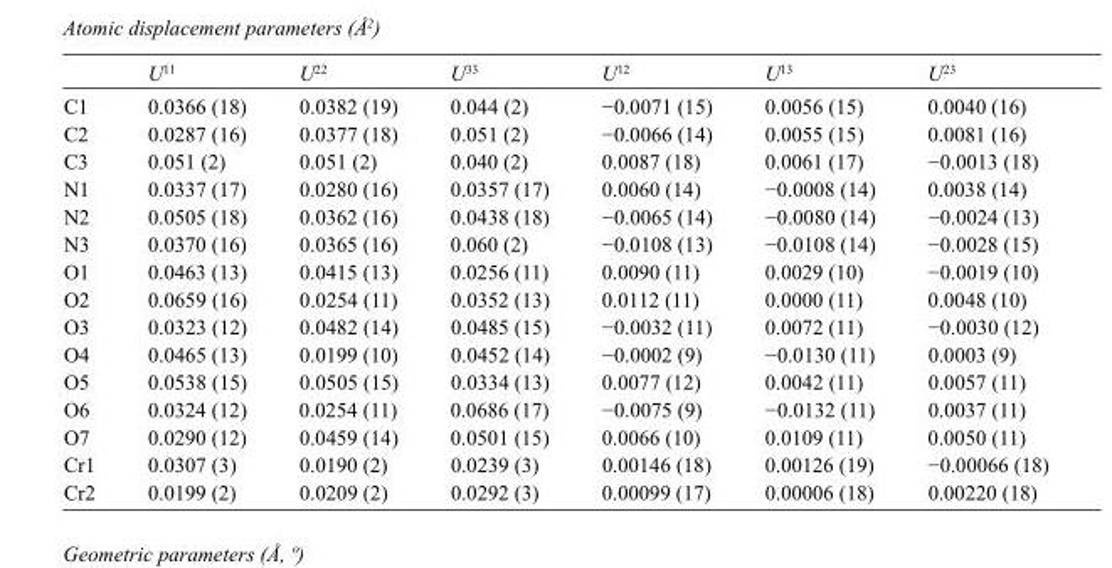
<table><thead><tr><td></td><td>U<sup>11</sup></td><td>U<sup>22</sup></td><td>U<sup>33</sup></td><td>U<sup>12</sup></td><td>U<sup>13</sup></td><td>U<sup>23</sup></td></tr></thead><tbody><tr><td>C1</td><td>0.0366 (18)</td><td>0.0382 (19)</td><td>0.044 (2)</td><td>−0.0071 (15)</td><td>0.0056 (15)</td><td>0.0040 (16)</td></tr><tr><td>C2</td><td>0.0287 (16)</td><td>0.0377 (18)</td><td>0.051 (2)</td><td>−0.0066 (14)</td><td>0.0055 (15)</td><td>0.0081 (16)</td></tr><tr><td>C3</td><td>0.051 (2)</td><td>0.051 (2)</td><td>0.040 (2)</td><td>0.0087 (18)</td><td>0.0061 (17)</td><td>−0.0013 (18)</td></tr><tr><td>N1</td><td>0.0337 (17)</td><td>0.0280 (16)</td><td>0.0357 (17)</td><td>0.0060 (14)</td><td>−0.0008 (14)</td><td>0.0038 (14)</td></tr><tr><td>N2</td><td>0.0505 (18)</td><td>0.0362 (16)</td><td>0.0438 (18)</td><td>−0.0065 (14)</td><td>−0.0080 (14)</td><td>−0.0024 (13)</td></tr><tr><td>N3</td><td>0.0370 (16)</td><td>0.0365 (16)</td><td>0.060 (2)</td><td>−0.0108 (13)</td><td>−0.0108 (14)</td><td>−0.0028 (15)</td></tr><tr><td>O1</td><td>0.0463 (13)</td><td>0.0415 (13)</td><td>0.0256 (11)</td><td>0.0090 (11)</td><td>0.0029 (10)</td><td>−0.0019 (10)</td></tr><tr><td>O2</td><td>0.0659 (16)</td><td>0.0254 (11)</td><td>0.0352 (13)</td><td>0.0112 (11)</td><td>0.0000 (11)</td><td>0.0048 (10)</td></tr><tr><td>O3</td><td>0.0323 (12)</td><td>0.0482 (14)</td><td>0.0485 (15)</td><td>−0.0032 (11)</td><td>0.0072 (11)</td><td>−0.0030 (12)</td></tr><tr><td>O4</td><td>0.0465 (13)</td><td>0.0199 (10)</td><td>0.0452 (14)</td><td>−0.0002 (9)</td><td>−0.0130 (11)</td><td>0.0003 (9)</td></tr><tr><td>O5</td><td>0.0538 (15)</td><td>0.0505 (15)</td><td>0.0334 (13)</td><td>0.0077 (12)</td><td>0.0042 (11)</td><td>0.0057 (11)</td></tr><tr><td>O6</td><td>0.0324 (12)</td><td>0.0254 (11)</td><td>0.0686 (17)</td><td>−0.0075 (9)</td><td>−0.0132 (11)</td><td>0.0037 (11)</td></tr><tr><td>O7</td><td>0.0290 (12)</td><td>0.0459 (14)</td><td>0.0501 (15)</td><td>0.0066 (10)</td><td>0.0109 (11)</td><td>0.0050 (11)</td></tr><tr><td>Cr1</td><td>0.0307 (3)</td><td>0.0190 (2)</td><td>0.0239 (3)</td><td>0.00146 (18)</td><td>0.00126 (19)</td><td>−0.00066 (18)</td></tr><tr><td>Cr2</td><td>0.0199 (2)</td><td>0.0209 (2)</td><td>0.0292 (3)</td><td>0.00099 (17)</td><td>0.00006 (18)</td><td>0.00220 (18)</td></tr></tbody></table>